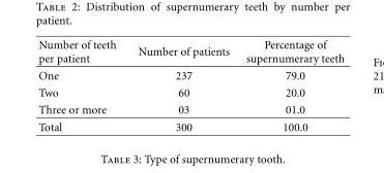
<table><thead><tr><td>Number of teeth per patient</td><td>Number of patients</td><td>Percentage of supernumerary teeth</td></tr></thead><tbody><tr><td>One</td><td>237</td><td>79.0</td></tr><tr><td>Two</td><td>60</td><td>20.0</td></tr><tr><td>Three or more</td><td>03</td><td>01.0</td></tr><tr><td>Total</td><td>300</td><td>100.0</td></tr></tbody></table>